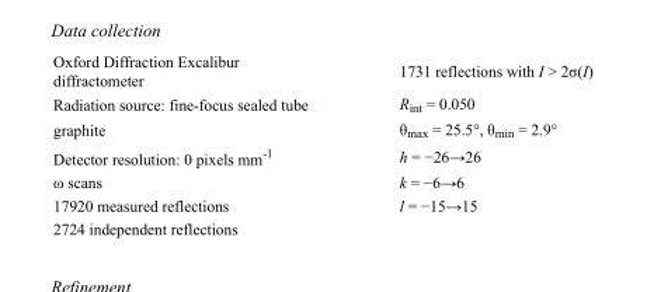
<table><tbody><tr><td>Oxford Diffraction Excalibur diffractometer</td><td>1731 reflections with I &gt; 2σ(I)</td></tr><tr><td>Radiation source: fine-focus sealed tube</td><td>R<sub>int</sub> = 0.050</td></tr><tr><td>graphite</td><td>θ<sub>max</sub> = 25.5°, θ<sub>min</sub> = 2.9°</td></tr><tr><td>Detector resolution: 0 pixels mm<sup>-1</sup></td><td>h = −26→26</td></tr><tr><td>ω scans</td><td>k = −6→6</td></tr><tr><td>17920 measured reflections</td><td>l = −15→15</td></tr><tr><td>2724 independent reflections</td><td></td></tr></tbody></table>